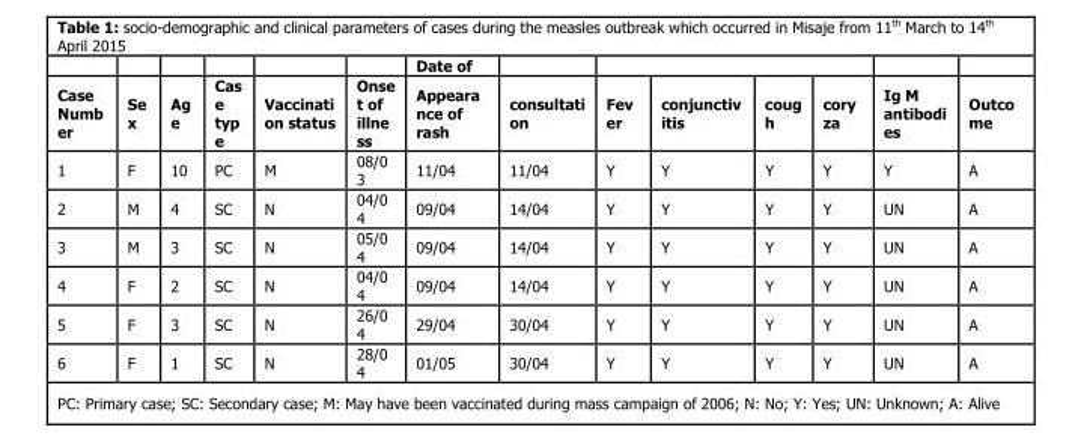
<table><thead><tr><td rowspan="2">Case Numb er</td><td rowspan="2">Se x</td><td rowspan="2">Ag e</td><td rowspan="2">Cas e typ e</td><td rowspan="2">Vaccinati on status</td><td rowspan="2">Onse t of illne ss</td><td rowspan="2">Date of Appeara nce of rash</td><td rowspan="2">consultati on</td><td rowspan="2">Fev er</td><td rowspan="2">conjunctiv itis</td><td rowspan="2">coug h</td><td rowspan="2">cory za</td><td rowspan="2">Ig M antibodi es</td><td rowspan="2">Outco me</td></tr><tr></tr></thead><tbody><tr><td>1</td><td>F</td><td>10</td><td>PC</td><td>M</td><td>08/0 3</td><td>11/04</td><td>11/04</td><td>Y</td><td>Y</td><td>Y</td><td>Y</td><td>Y</td><td>A</td></tr><tr><td>2</td><td>M</td><td>4</td><td>SC</td><td>N</td><td>04/0 4</td><td>09/04</td><td>14/04</td><td>Y</td><td>Y</td><td>Y</td><td>Y</td><td>UN</td><td>A</td></tr><tr><td>3</td><td>M</td><td>3</td><td>SC</td><td>N</td><td>05/0 4</td><td>09/04</td><td>14/04</td><td>Y</td><td>Y</td><td>Y</td><td>Y</td><td>UN</td><td>A</td></tr><tr><td>4</td><td>F</td><td>2</td><td>SC</td><td>N</td><td>04/0 4</td><td>09/04</td><td>14/04</td><td>Y</td><td>Y</td><td>Y</td><td>Y</td><td>UN</td><td>A</td></tr><tr><td>5</td><td>F</td><td>3</td><td>SC</td><td>N</td><td>26/0 4</td><td>29/04</td><td>30/04</td><td>Y</td><td>Y</td><td>Y</td><td>Y</td><td>UN</td><td>A</td></tr><tr><td>6</td><td>F</td><td>1</td><td>SC</td><td>N</td><td>28/0 4</td><td>01/05</td><td>30/04</td><td>Y</td><td>Y</td><td>Y</td><td>Y</td><td>UN</td><td>A</td></tr></tbody></table>